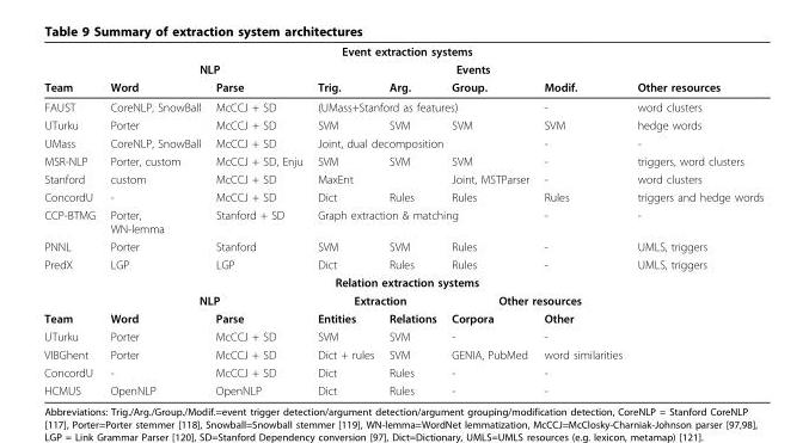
<table><thead><tr><td colspan="8">Event extraction systems</td></tr><tr><td rowspan="2">Team</td><td colspan="2">NLP</td><td colspan="4">Events</td><td rowspan="2">Other resources</td></tr><tr><td>Word</td><td>Parse</td><td>Trig.</td><td>Arg.</td><td>Group.</td><td>Modif.</td></tr></thead><tbody><tr><td>FAUST</td><td>CoreNLP, SnowBall</td><td>McCCJ + SD</td><td colspan="3">(UMass+Stanford as features)</td><td>-</td><td>word clusters</td></tr><tr><td>UTurku</td><td>Porter</td><td>McCCJ + SD</td><td>SVM</td><td>SVM</td><td>SVM</td><td>SVM</td><td>hedge words</td></tr><tr><td>UMass</td><td>CoreNLP, SnowBall</td><td>McCCJ + SD</td><td colspan="3">Joint, dual decomposition</td><td>-</td><td>-</td></tr><tr><td>MSR-NLP</td><td>Porter, custom</td><td>McCCJ + SD, Enju</td><td>SVM</td><td>SVM</td><td>SVM</td><td>-</td><td>triggers, word clusters</td></tr><tr><td>Stanford</td><td>custom</td><td>McCCJ + SD</td><td colspan="2">MaxEnt</td><td>Joint, MSTParser</td><td>-</td><td>word clusters</td></tr><tr><td>ConcordU</td><td>-</td><td>McCCJ + SD</td><td>Dict</td><td>Rules</td><td>Rules</td><td>Rules</td><td>triggers and hedge words</td></tr><tr><td>CCP-BTMG</td><td>Porter, WN-lemma</td><td>Stanford + SD</td><td colspan="3">Graph extraction &amp; matching</td><td>-</td><td>-</td></tr><tr><td>PNNL</td><td>Porter</td><td>Stanford</td><td>SVM</td><td>SVM</td><td>Rules</td><td>-</td><td>UMLS, triggers</td></tr><tr><td>PredX</td><td>LGP</td><td>LGP</td><td>Dict</td><td>Rules</td><td>Rules</td><td>-</td><td>UMLS, triggers</td></tr><tr><td colspan="8">Relation extraction systems</td></tr><tr><td></td><td colspan="2">NLP</td><td colspan="2">Extraction</td><td colspan="2">Other resources</td><td></td></tr><tr><td>Team</td><td>Word</td><td>Parse</td><td>Entities</td><td>Relations</td><td>Corpora</td><td>Other</td><td></td></tr><tr><td>UTurku</td><td>Porter</td><td>McCCJ + SD</td><td>SVM</td><td>SVM</td><td>-</td><td>-</td><td></td></tr><tr><td>VIBGhent</td><td>Porter</td><td>McCCJ + SD</td><td>Dict + rules</td><td>SVM</td><td>GENIA, PubMed</td><td>word similarities</td><td></td></tr><tr><td>ConcordU</td><td>-</td><td>McCCJ + SD</td><td>Dict</td><td>Rules</td><td>-</td><td>-</td><td></td></tr><tr><td>HCMUS</td><td>OpenNLP</td><td>OpenNLP</td><td>Dict</td><td>Rules</td><td>-</td><td>-</td><td></td></tr></tbody></table>